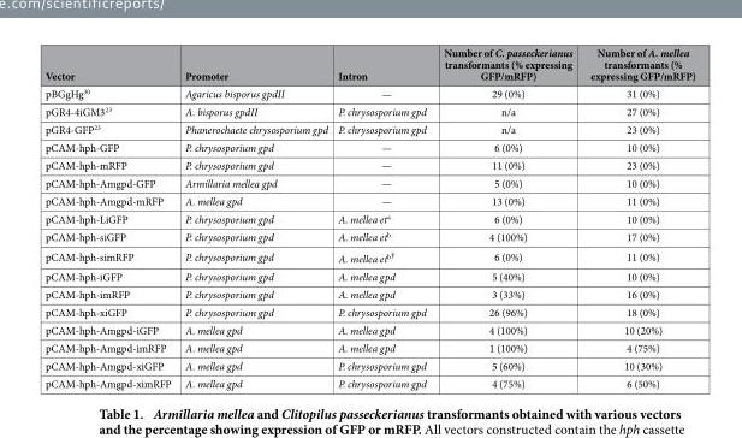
<table><thead><tr><td>Vector</td><td>Promoter</td><td>Intron</td><td>Number of C. passeckerianus transformants (% expressing GFP/mRFP)</td><td>Number of A. mellea transformants (% expressing GFP/mRFP)</td></tr></thead><tbody><tr><td>pBGgHg<sup>30</sup></td><td>Agaricus bisporus gpdII</td><td>—</td><td>29 (0%)</td><td>31 (0%)</td></tr><tr><td>pGR4-4iGM3<sup>23</sup></td><td>A. bisporus gpdII</td><td>P. chrysosporium gpd</td><td>n/a</td><td>27 (0%)</td></tr><tr><td>pGR4-GFP<sup>23</sup></td><td>Phanerochaete chrysosporium gpd</td><td>P. chrysosporium gpd</td><td>n/a</td><td>23 (0%)</td></tr><tr><td>pCAM-hph-GFP</td><td>P. chrysosporium gpd</td><td>—</td><td>6 (0%)</td><td>10 (0%)</td></tr><tr><td>pCAM-hph-mRFP</td><td>P. chrysosporium gpd</td><td>—</td><td>11 (0%)</td><td>23 (0%)</td></tr><tr><td>pCAM-hph-Amgpd-GFP</td><td>Armillaria mellea gpd</td><td>—</td><td>5 (0%)</td><td>10 (0%)</td></tr><tr><td>pCAM-hph-Amgpd-mRFP</td><td>A. mellea gpd</td><td>—</td><td>13 (0%)</td><td>11 (0%)</td></tr><tr><td>pCAM-hph-LiGFP</td><td>P. chrysosporium gpd</td><td>A. mellea et<sup>a</sup></td><td>6 (0%)</td><td>10 (0%)</td></tr><tr><td>pCAM-hph-siGFP</td><td>P. chrysosporium gpd</td><td>A. mellea et<sup>b</sup></td><td>4 (100%)</td><td>17 (0%)</td></tr><tr><td>pCAM-hph-simRFP</td><td>P. chrysosporium gpd</td><td>A. mellea et<sup>b</sup>†</td><td>6 (0%)</td><td>11 (0%)</td></tr><tr><td>pCAM-hph-iGFP</td><td>P. chrysosporium gpd</td><td>A. mellea gpd</td><td>5 (40%)</td><td>10 (0%)</td></tr><tr><td>pCAM-hph-imRFP</td><td>P. chrysosporium gpd</td><td>A. mellea gpd</td><td>3 (33%)</td><td>16 (0%)</td></tr><tr><td>pCAM-hph-xiGFP</td><td>P. chrysosporium gpd</td><td>P. chrysosporium gpd</td><td>26 (96%)</td><td>18 (0%)</td></tr><tr><td>pCAM-hph-Amgpd-iGFP</td><td>A. mellea gpd</td><td>A. mellea gpd</td><td>4 (100%)</td><td>10 (20%)</td></tr><tr><td>pCAM-hph-Amgpd-imRFP</td><td>A. mellea gpd</td><td>A. mellea gpd</td><td>1 (100%)</td><td>4 (75%)</td></tr><tr><td>pCAM-hph-Amgpd-xiGFP</td><td>A. mellea gpd</td><td>P. chrysosporium gpd</td><td>5 (60%)</td><td>10 (30%)</td></tr><tr><td>pCAM-hph-Amgpd-ximRFP</td><td>A. mellea gpd</td><td>P. chrysosporium gpd</td><td>4 (75%)</td><td>6 (50%)</td></tr></tbody></table>